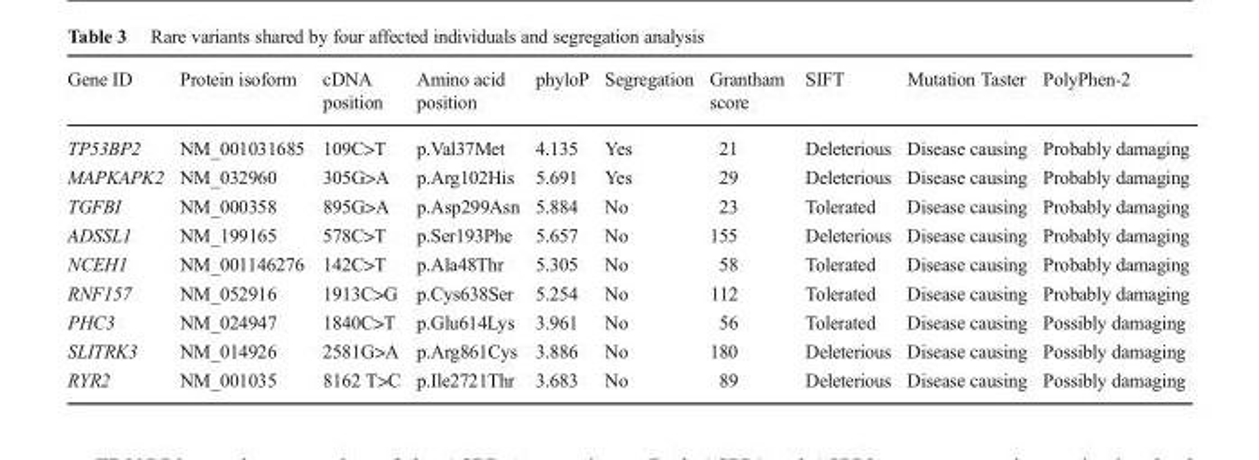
<table><thead><tr><td>Gene ID</td><td>Protein isoform</td><td>cDNA position</td><td>Amino acid position</td><td>phyloP</td><td>Segregation</td><td>Grantham score</td><td>SIFT</td><td>Mutation Taster</td><td>PolyPhen-2</td></tr></thead><tbody><tr><td>TP53BP2</td><td>NM_001031685</td><td>109C&gt;T</td><td>p.Val37Met</td><td>4.135</td><td>Yes</td><td>21</td><td>Deleterious</td><td>Disease causing</td><td>Probably damaging</td></tr><tr><td>MAPKAPK2</td><td>NM_032960</td><td>305G&gt;A</td><td>p.Arg102His</td><td>5.691</td><td>Yes</td><td>29</td><td>Deleterious</td><td>Disease causing</td><td>Probably damaging</td></tr><tr><td>TGFBI</td><td>NM_000358</td><td>895G&gt;A</td><td>p.Asp299Asn</td><td>5.884</td><td>No</td><td>23</td><td>Tolerated</td><td>Disease causing</td><td>Probably damaging</td></tr><tr><td>ADSSL1</td><td>NM_199165</td><td>578C&gt;T</td><td>p.Ser193Phe</td><td>5.657</td><td>No</td><td>155</td><td>Deleterious</td><td>Disease causing</td><td>Probably damaging</td></tr><tr><td>NCEH1</td><td>NM_001146276</td><td>142C&gt;T</td><td>p.Ala48Thr</td><td>5.305</td><td>No</td><td>58</td><td>Tolerated</td><td>Disease causing</td><td>Probably damaging</td></tr><tr><td>RNF157</td><td>NM_052916</td><td>1913C&gt;G</td><td>p.Cys638Ser</td><td>5.254</td><td>No</td><td>112</td><td>Tolerated</td><td>Disease causing</td><td>Probably damaging</td></tr><tr><td>PHC3</td><td>NM_024947</td><td>1840C&gt;T</td><td>p.Glu614Lys</td><td>3.961</td><td>No</td><td>56</td><td>Tolerated</td><td>Disease causing</td><td>Possibly damaging</td></tr><tr><td>SLITRK3</td><td>NM_014926</td><td>2581G&gt;A</td><td>p.Arg861Cys</td><td>3.886</td><td>No</td><td>180</td><td>Deleterious</td><td>Disease causing</td><td>Possibly damaging</td></tr><tr><td>RYR2</td><td>NM_001035</td><td>8162 T&gt;C</td><td>p.Ile2721Thr</td><td>3.683</td><td>No</td><td>89</td><td>Deleterious</td><td>Disease causing</td><td>Possibly damaging</td></tr></tbody></table>